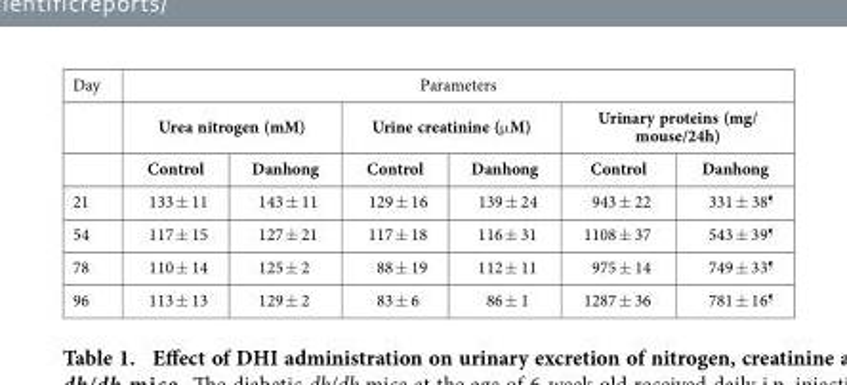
<table><tbody><tr><td rowspan="3">Day</td><td colspan="6">Parameters</td></tr><tr><td colspan="2">Urea nitrogen (mM)</td><td colspan="2">Urine creatinine (μ M)</td><td colspan="2">Urinary proteins (mg/ mouse/24h)</td></tr><tr><td>Control</td><td>Danhong</td><td>Control</td><td>Danhong</td><td>Control</td><td>Danhong</td></tr><tr><td>21</td><td>133 ± 11</td><td>143 ± 11</td><td>129 ± 16</td><td>139 ± 24</td><td>943 ± 22</td><td>331 ± 38<sup>¶</sup></td></tr><tr><td>54</td><td>117 ± 15</td><td>127 ± 21</td><td>117 ± 18</td><td>116 ± 31</td><td>1108 ± 37</td><td>543 ± 39<sup>¶</sup></td></tr><tr><td>78</td><td>110 ± 14</td><td>125 ± 2</td><td>88 ± 19</td><td>112 ± 11</td><td>975 ± 14</td><td>749 ± 33<sup>¶</sup></td></tr><tr><td>96</td><td>113 ± 13</td><td>129 ± 2</td><td>83 ± 6</td><td>86 ± 1</td><td>1287 ± 36</td><td>781 ± 16<sup>¶</sup></td></tr></tbody></table>